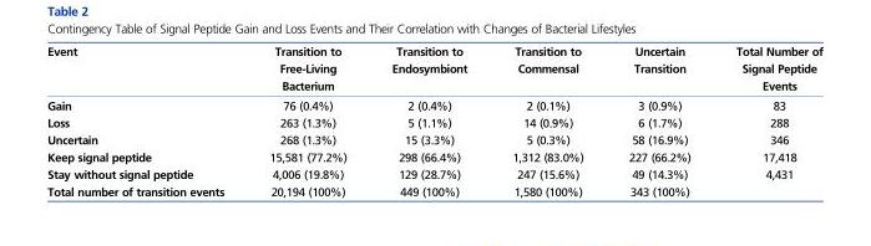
<table><thead><tr><td>Event</td><td>Transition to Free-Living Bacterium</td><td>Transition to Endosymbiont</td><td>Transition to Commensal</td><td>Uncertain Transition</td><td>Total Number of Signal Peptide Events</td></tr></thead><tbody><tr><td>Gain</td><td>76 (0.4%)</td><td>2 (0.4%)</td><td>2 (0.1%)</td><td>3 (0.9%)</td><td>83</td></tr><tr><td>Loss</td><td>263 (1.3%)</td><td>5 (1.1%)</td><td>14 (0.9%)</td><td>6 (1.7%)</td><td>288</td></tr><tr><td>Uncertain</td><td>268 (1.3%)</td><td>15 (3.3%)</td><td>5 (0.3%)</td><td>58 (16.9%)</td><td>346</td></tr><tr><td>Keep signal peptide</td><td>15,581 (77.2%)</td><td>298 (66.4%)</td><td>1,312 (83.0%)</td><td>227 (66.2%)</td><td>17,418</td></tr><tr><td>Stay without signal peptide</td><td>4,006 (19.8%)</td><td>129 (28.7%)</td><td>247 (15.6%)</td><td>49 (14.3%)</td><td>4,431</td></tr><tr><td>Total number of transition events</td><td>20,194 (100%)</td><td>449 (100%)</td><td>1,580 (100%)</td><td>343 (100%)</td><td></td></tr></tbody></table>